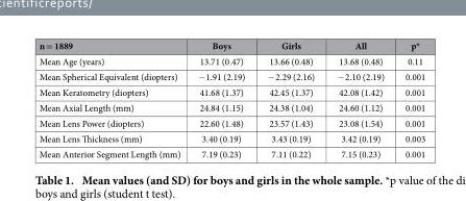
<table><thead><tr><td>n = 1889</td><td>Boys</td><td>Girls</td><td>All</td><td>p*</td></tr></thead><tbody><tr><td>Mean Age (years)</td><td>13.71 (0.47)</td><td>13.66 (0.48)</td><td>13.68 (0.48)</td><td>0.11</td></tr><tr><td>Mean Spherical Equivalent (diopters)</td><td>− 1.91 (2.19)</td><td>− 2.29 (2.16)</td><td>− 2.10 (2.19)</td><td>0.001</td></tr><tr><td>Mean Keratometry (diopters)</td><td>41.68 (1.37)</td><td>42.45 (1.37)</td><td>42.08 (1.42)</td><td>0.001</td></tr><tr><td>Mean Axial Length (mm)</td><td>24.84 (1.15)</td><td>24.38 (1.04)</td><td>24.60 (1.12)</td><td>0.001</td></tr><tr><td>Mean Lens Power (diopters)</td><td>22.60 (1.48)</td><td>23.57 (1.43)</td><td>23.08 (1.54)</td><td>0.001</td></tr><tr><td>Mean Lens Thickness (mm)</td><td>3.40 (0.19)</td><td>3.43 (0.19)</td><td>3.42 (0.19)</td><td>0.003</td></tr><tr><td>Mean Anterior Segment Length (mm)</td><td>7.19 (0.23)</td><td>7.11 (0.22)</td><td>7.15 (0.23)</td><td>0.001</td></tr></tbody></table>